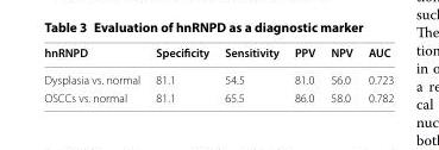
<table><thead><tr><td>hnRNPD</td><td>Specificity</td><td>Sensitivity</td><td>PPV</td><td>NPV</td><td>AUC</td></tr></thead><tbody><tr><td>Dysplasia vs. normal</td><td>81.1</td><td>54.5</td><td>81.0</td><td>56.0</td><td>0.723</td></tr><tr><td>OSCCs vs. normal</td><td>81.1</td><td>65.5</td><td>86.0</td><td>58.0</td><td>0.782</td></tr></tbody></table>